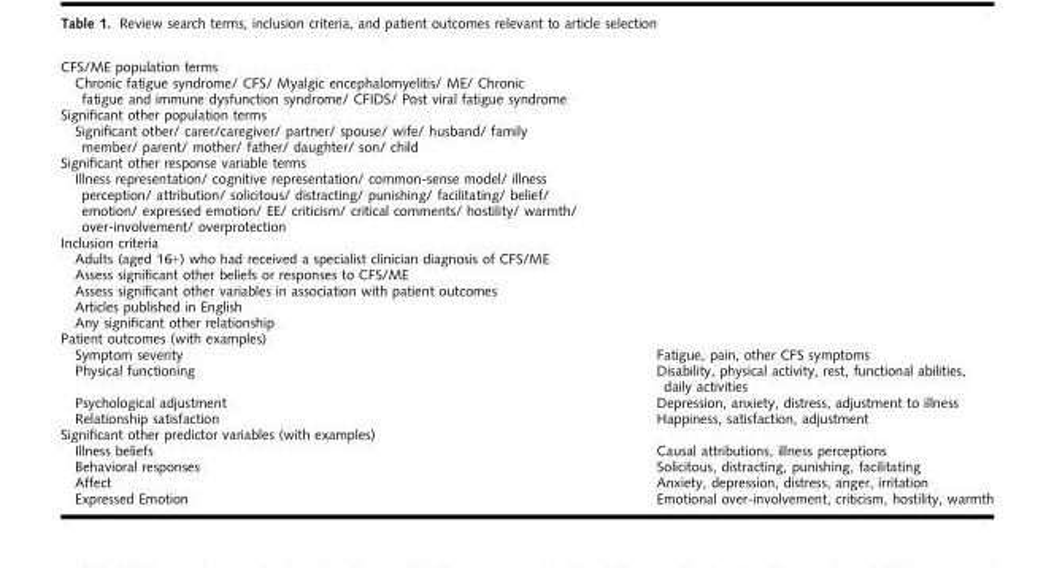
<table><tbody><tr><td colspan="2">CFS/ME population terms</td></tr><tr><td colspan="2">Chronic fatigue syndrome/ CFS/ Myalgic encephalomyelitis/ ME/ Chronic fatigue and immune dysfunction syndrome/ CFIDS/ Post viral fatigue syndrome</td></tr><tr><td colspan="2">Significant other population terms</td></tr><tr><td colspan="2">Significant other/ carer/caregiver/ partner/ spouse/ wife/ husband/ family member/ parent/ mother/ father/ daughter/ son/ child</td></tr><tr><td colspan="2">Significant other response variable terms</td></tr><tr><td colspan="2">Illness representation/ cognitive representation/ common-sense model/ illness perception/ attribution/ solicitous/ distracting/ punishing/ facilitating/ belief/ emotion/ expressed emotion/ EE/ criticism/ critical comments/ hostility/ warmth/ over-involvement/ overprotection</td></tr><tr><td colspan="2">Inclusion criteria</td></tr><tr><td colspan="2">Adults (aged 16+) who had received a specialist clinician diagnosis of CFS/ME</td></tr><tr><td colspan="2">Assess significant other beliefs or responses to CFS/ME</td></tr><tr><td colspan="2">Assess significant other variables in association with patient outcomes</td></tr><tr><td colspan="2">Articles published in English</td></tr><tr><td colspan="2">Any significant other relationship</td></tr><tr><td colspan="2">Patient outcomes (with examples)</td></tr><tr><td>Symptom severity</td><td>Fatigue, pain, other CFS symptoms</td></tr><tr><td>Physical functioning</td><td>Disability, physical activity, rest, functional abilities, daily activities</td></tr><tr><td>Psychological adjustment</td><td>Depression, anxiety, distress, adjustment to illness</td></tr><tr><td>Relationship satisfaction</td><td>Happiness, satisfaction, adjustment</td></tr><tr><td colspan="2">Significant other predictor variables (with examples)</td></tr><tr><td>Illness beliefs</td><td>Causal attributions, illness perceptions</td></tr><tr><td>Behavioral responses</td><td>Solicitous, distracting, punishing, facilitating</td></tr><tr><td>Affect</td><td>Anxiety, depression, distress, anger, irritation</td></tr><tr><td>Expressed Emotion</td><td>Emotional over-involvement, criticism, hostility, warmth</td></tr></tbody></table>